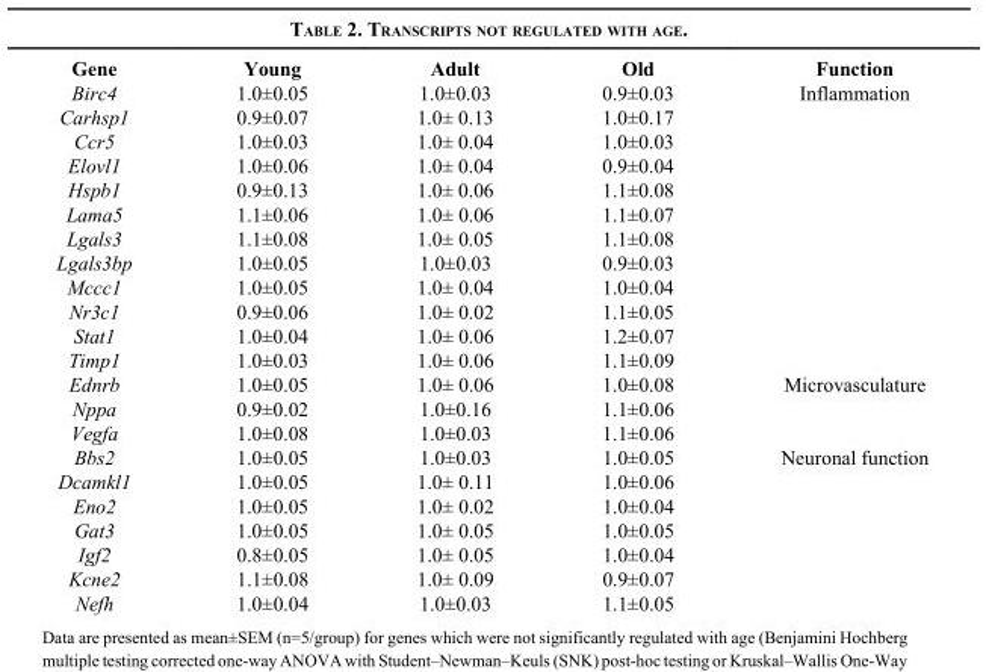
<table><thead><tr><td>Gene</td><td>Young</td><td>Adult</td><td>Old</td><td>Function</td></tr></thead><tbody><tr><td>Birc4</td><td>1.0±0.05</td><td>1.0±0.03</td><td>0.9±0.03</td><td>Inflammation</td></tr><tr><td>Carhsp1</td><td>0.9±0.07</td><td>1.0± 0.13</td><td>1.0±0.17</td><td></td></tr><tr><td>Ccr5</td><td>1.0±0.03</td><td>1.0± 0.04</td><td>1.0±0.03</td><td></td></tr><tr><td>Elovl1</td><td>1.0±0.06</td><td>1.0± 0.04</td><td>0.9±0.04</td><td></td></tr><tr><td>Hspb1</td><td>0.9±0.13</td><td>1.0± 0.06</td><td>1.1±0.08</td><td></td></tr><tr><td>Lama5</td><td>1.1±0.06</td><td>1.0± 0.06</td><td>1.1±0.07</td><td></td></tr><tr><td>Lgals3</td><td>1.1±0.08</td><td>1.0± 0.05</td><td>1.1±0.08</td><td></td></tr><tr><td>Lgals3bp</td><td>1.0±0.05</td><td>1.0±0.03</td><td>0.9±0.03</td><td></td></tr><tr><td>Mccc1</td><td>1.0±0.05</td><td>1.0± 0.04</td><td>1.0±0.04</td><td></td></tr><tr><td>Nr3c1</td><td>0.9±0.06</td><td>1.0± 0.02</td><td>1.1±0.05</td><td></td></tr><tr><td>Stat1</td><td>1.0±0.04</td><td>1.0± 0.06</td><td>1.2±0.07</td><td></td></tr><tr><td>Timp1</td><td>1.0±0.03</td><td>1.0± 0.06</td><td>1.1±0.09</td><td></td></tr><tr><td>Ednrb</td><td>1.0±0.05</td><td>1.0± 0.06</td><td>1.0±0.08</td><td>Microvasculature</td></tr><tr><td>Nppa</td><td>0.9±0.02</td><td>1.0±0.16</td><td>1.1±0.06</td><td></td></tr><tr><td>Vegfa</td><td>1.0±0.08</td><td>1.0±0.03</td><td>1.1±0.06</td><td></td></tr><tr><td>Bbs2</td><td>1.0±0.05</td><td>1.0±0.03</td><td>1.0±0.05</td><td>Neuronal function</td></tr><tr><td>Dcamkl1</td><td>1.0±0.05</td><td>1.0± 0.11</td><td>1.0±0.06</td><td></td></tr><tr><td>Eno2</td><td>1.0±0.05</td><td>1.0± 0.02</td><td>1.0±0.04</td><td></td></tr><tr><td>Gat3</td><td>1.0±0.05</td><td>1.0± 0.05</td><td>1.0±0.05</td><td></td></tr><tr><td>Igf2</td><td>0.8±0.05</td><td>1.0± 0.05</td><td>1.0±0.04</td><td></td></tr><tr><td>Kcne2</td><td>1.1±0.08</td><td>1.0± 0.09</td><td>0.9±0.07</td><td></td></tr><tr><td>Nefh</td><td>1.0±0.04</td><td>1.0±0.03</td><td>1.1±0.05</td><td></td></tr></tbody></table>